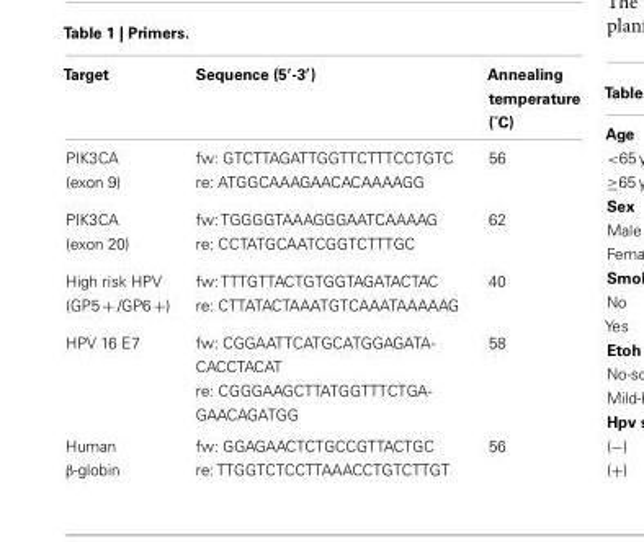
<table><thead><tr><td>Target</td><td>Sequence (5′-3′)</td><td>Annealing temperature (˚C)</td></tr></thead><tbody><tr><td>PIK3CA (exon 9)</td><td>fw: GTCTTAGATTGGTTCTTTCCTGTC re: ATGGCAAAGAACACAAAAGG</td><td>56</td></tr><tr><td>PIK3CA (exon 20)</td><td>fw: TGGGGTAAAGGGAATCAAAAG re: CCTATGCAATCGGTCTTTGC</td><td>62</td></tr><tr><td>High risk HPV (GP5 + /GP6 +)</td><td>fw: TTTGTTACTGTGGTAGATACTAC re: CTTATACTAAATGTCAAATAAAAAG</td><td>40</td></tr><tr><td>HPV 16 E7</td><td>fw: CGGAATTCATGCATGGAGATA- CACCTACAT re: CGGGAAGCTTATGGTTTCTGA- GAACAGATGG</td><td>58</td></tr><tr><td>Human β-globin</td><td>fw: GGAGAACTCTGCCGTTACTGC re: TTGGTCTCCTTAAACCTGTCTTGT</td><td>56</td></tr></tbody></table>